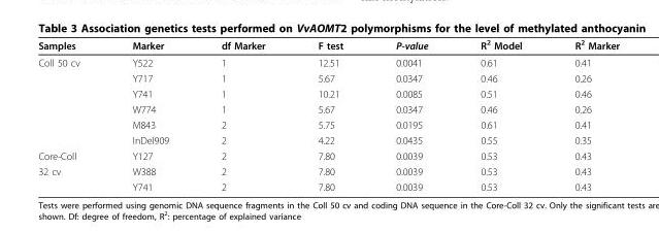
<table><thead><tr><td>Samples</td><td>Marker</td><td>df Marker</td><td>F test</td><td>P-value</td><td>R<sup>2</sup> Model</td><td>R<sup>2</sup> Marker</td></tr></thead><tbody><tr><td rowspan="6">Coll 50 cv</td><td>Y522</td><td>1</td><td>12.51</td><td>0.0041</td><td>0.61</td><td>0.41</td></tr><tr><td>Y717</td><td>1</td><td>5.67</td><td>0.0347</td><td>0.46</td><td>0.26</td></tr><tr><td>Y741</td><td>1</td><td>10.21</td><td>0.0085</td><td>0.51</td><td>0.46</td></tr><tr><td>W774</td><td>1</td><td>5.67</td><td>0.0347</td><td>0.46</td><td>0.26</td></tr><tr><td>M843</td><td>2</td><td>5.75</td><td>0.0195</td><td>0.61</td><td>0.41</td></tr><tr><td>InDel909</td><td>2</td><td>4.22</td><td>0.0435</td><td>0.55</td><td>0.35</td></tr><tr><td>Core-Coll</td><td>Y127</td><td>2</td><td>7.80</td><td>0.0039</td><td>0.53</td><td>0.43</td></tr><tr><td rowspan="2">32 cv</td><td>W388</td><td>2</td><td>7.80</td><td>0.0039</td><td>0.53</td><td>0.43</td></tr><tr><td>Y741</td><td>2</td><td>7.80</td><td>0.0039</td><td>0.53</td><td>0.43</td></tr></tbody></table>